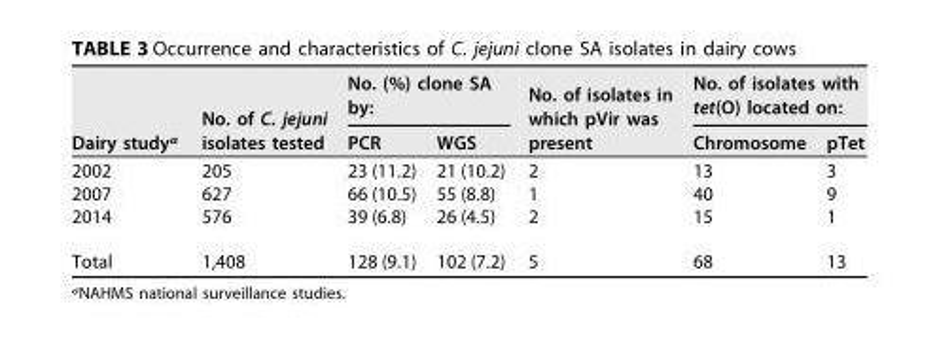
<table><thead><tr><td rowspan="2">Dairy study<sup>a</sup></td><td rowspan="2">No. of C. jejuni isolates tested</td><td colspan="2">No. (%) clone SA by:</td><td rowspan="2">No. of isolates in which pVir was present</td><td colspan="2">No. of isolates with tet(O) located on:</td></tr><tr><td>PCR</td><td>WGS</td><td>Chromosome</td><td>pTet</td></tr></thead><tbody><tr><td>2002</td><td>205</td><td>23 (11.2)</td><td>21 (10.2)</td><td>2</td><td>13</td><td>3</td></tr><tr><td>2007</td><td>627</td><td>66 (10.5)</td><td>55 (8.8)</td><td>1</td><td>40</td><td>9</td></tr><tr><td>2014</td><td>576</td><td>39 (6.8)</td><td>26 (4.5)</td><td>2</td><td>15</td><td>1</td></tr><tr><td>Total</td><td>1,408</td><td>128 (9.1)</td><td>102 (7.2)</td><td>5</td><td>68</td><td>13</td></tr></tbody></table>